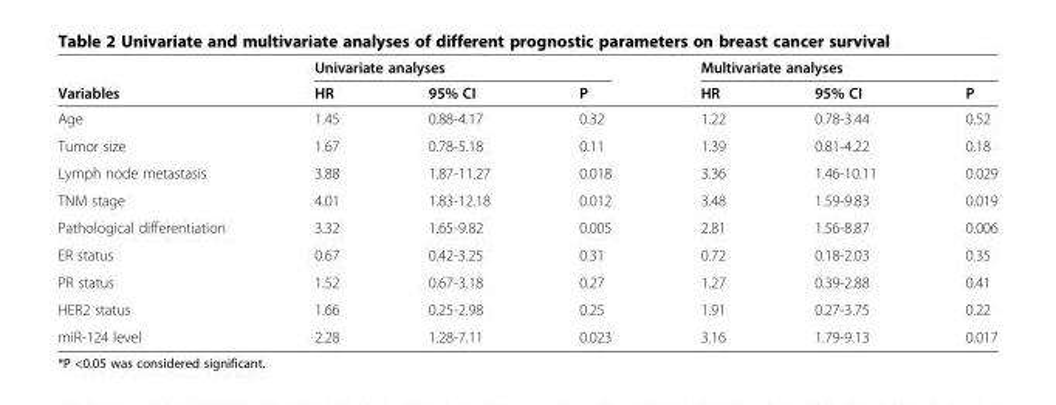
<table><thead><tr><td rowspan="2">Variables</td><td colspan="3">Univariate analyses</td><td colspan="3">Multivariate analyses</td></tr><tr><td>HR</td><td>95% CI</td><td>P</td><td>HR</td><td>95% CI</td><td>P</td></tr></thead><tbody><tr><td>Age</td><td>1.45</td><td>0.88-4.17</td><td>0.32</td><td>1.22</td><td>0.78-3.44</td><td>0.52</td></tr><tr><td>Tumor size</td><td>1.67</td><td>0.78-5.18</td><td>0.11</td><td>1.39</td><td>0.81-4.22</td><td>0.18</td></tr><tr><td>Lymph node metastasis</td><td>3.88</td><td>1.87-11.27</td><td>0.018</td><td>3.36</td><td>1.46-10.11</td><td>0.029</td></tr><tr><td>TNM stage</td><td>4.01</td><td>1.83-12.18</td><td>0.012</td><td>3.48</td><td>1.59-9.83</td><td>0.019</td></tr><tr><td>Pathological differentiation</td><td>3.32</td><td>1.65-9.82</td><td>0.005</td><td>2.81</td><td>1.56-8.87</td><td>0.006</td></tr><tr><td>ER status</td><td>0.67</td><td>0.42-3.25</td><td>0.31</td><td>0.72</td><td>0.18-2.03</td><td>0.35</td></tr><tr><td>PR status</td><td>1.52</td><td>0.67-3.18</td><td>0.27</td><td>1.27</td><td>0.39-2.88</td><td>0.41</td></tr><tr><td>HER2 status</td><td>1.66</td><td>0.25-2.98</td><td>0.25</td><td>1.91</td><td>0.27-3.75</td><td>0.22</td></tr><tr><td>miR-124 level</td><td>2.28</td><td>1.28-7.11</td><td>0.023</td><td>3.16</td><td>1.79-9.13</td><td>0.017</td></tr></tbody></table>